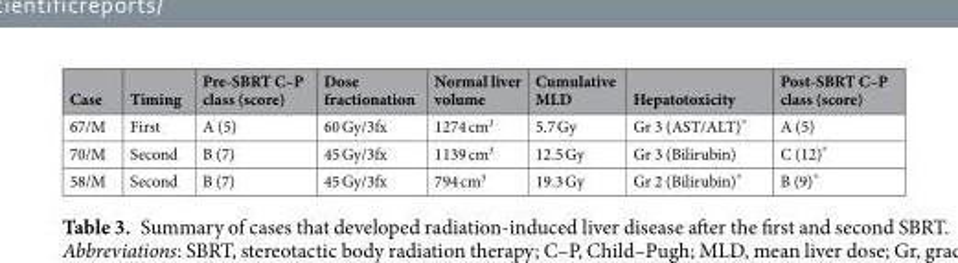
<table><thead><tr><td>Case</td><td>Timing</td><td>Pre-SBRT C–P class (score)</td><td>Dose fractionation</td><td>Normal liver volume</td><td>Cumulative MLD</td><td>Hepatotoxicity</td><td>Post-SBRT C–P class (score)</td></tr></thead><tbody><tr><td>67/M</td><td>First</td><td>A (5)</td><td>60 Gy/3fx</td><td>1274 cm<sup>3</sup></td><td>5.7 Gy</td><td>Gr 3 (AST/ALT)*</td><td>A (5)</td></tr><tr><td>70/M</td><td>Second</td><td>B (7)</td><td>45 Gy/3fx</td><td>1139 cm<sup>3</sup></td><td>12.5 Gy</td><td>Gr 3 (Bilirubin)</td><td>C (12)*</td></tr><tr><td>58/M</td><td>Second</td><td>B (7)</td><td>45 Gy/3fx</td><td>794 cm<sup>3</sup></td><td>19.3 Gy</td><td>Gr 2 (Bilirubin)*</td><td>B (9)*</td></tr></tbody></table>